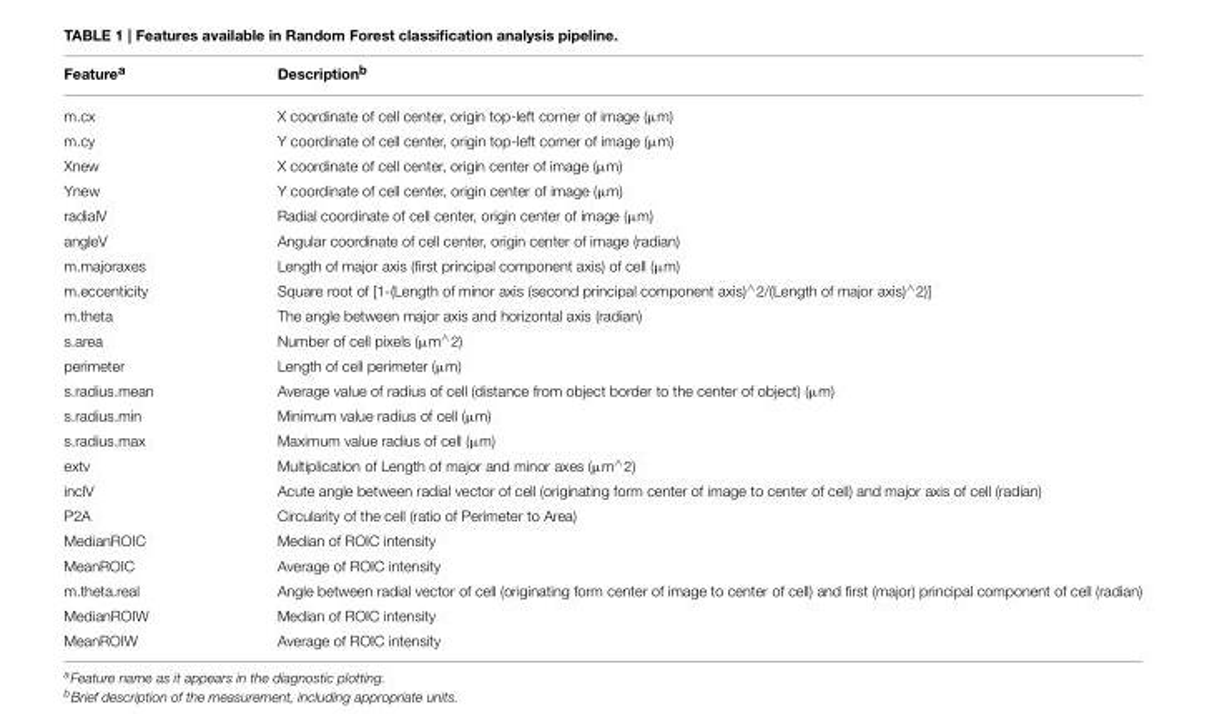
<table><thead><tr><td>Feature<sup>a</sup></td><td>Description<sup>b</sup></td></tr></thead><tbody><tr><td>m.cx</td><td>X coordinate of cell center, origin top-left corner of image (µm)</td></tr><tr><td>m.cy</td><td>Y coordinate of cell center, origin top-left corner of image (µm)</td></tr><tr><td>Xnew</td><td>X coordinate of cell center, origin center of image (µm)</td></tr><tr><td>Ynew</td><td>Y coordinate of cell center, origin center of image (µm)</td></tr><tr><td>radialV</td><td>Radial coordinate of cell center, origin center of image (µm)</td></tr><tr><td>angleV</td><td>Angular coordinate of cell center, origin center of image (radian)</td></tr><tr><td>m.majoraxes</td><td>Length of major axis (first principal component axis) of cell (µm)</td></tr><tr><td>m.eccenticity</td><td>Square root of [1-(Length of minor axis (second principal component axis)∧2/(Length of major axis)∧2)]</td></tr><tr><td>m.theta</td><td>The angle between major axis and horizontal axis (radian)</td></tr><tr><td>s.area</td><td>Number of cell pixels (µm∧2)</td></tr><tr><td>perimeter</td><td>Length of cell perimeter (µm)</td></tr><tr><td>s.radius.mean</td><td>Average value of radius of cell (distance from object border to the center of object) (µm)</td></tr><tr><td>s.radius.min</td><td>Minimum value radius of cell (µm)</td></tr><tr><td>s.radius.max</td><td>Maximum value radius of cell (µm)</td></tr><tr><td>extv</td><td>Multiplication of Length of major and minor axes (µm∧2)</td></tr><tr><td>inclV</td><td>Acute angle between radial vector of cell (originating form center of image to center of cell) and major axis of cell (radian)</td></tr><tr><td>P2A</td><td>Circularity of the cell (ratio of Perimeter to Area)</td></tr><tr><td>MedianROIC</td><td>Median of ROIC intensity</td></tr><tr><td>MeanROIC</td><td>Average of ROIC intensity</td></tr><tr><td>m.theta.real</td><td>Angle between radial vector of cell (originating form center of image to center of cell) and first (major) principal component of cell (radian)</td></tr><tr><td>MedianROIW</td><td>Median of ROIC intensity</td></tr><tr><td>MeanROIW</td><td>Average of ROIC intensity</td></tr></tbody></table>